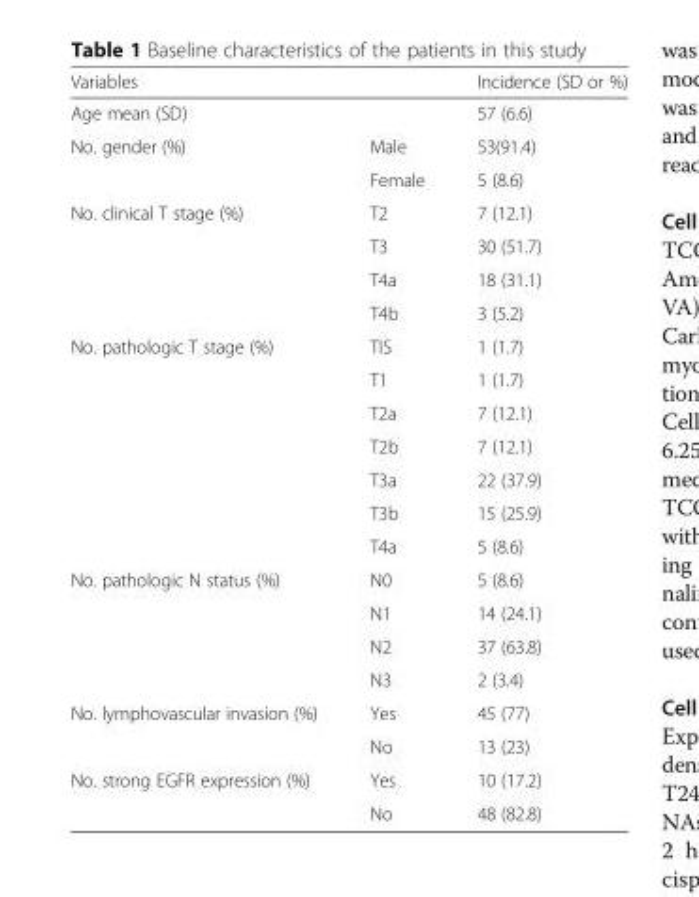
<table><thead><tr><td>Variables</td><td></td><td>Incidence (SD or %)</td></tr></thead><tbody><tr><td>Age mean (SD)</td><td></td><td>57 (6.6)</td></tr><tr><td rowspan="2">No. gender (%)</td><td>Male</td><td>53(91.4)</td></tr><tr><td>Female</td><td>5 (8.6)</td></tr><tr><td rowspan="4">No. clinical T stage (%)</td><td>T2</td><td>7 (12.1)</td></tr><tr><td>T3</td><td>30 (51.7)</td></tr><tr><td>T4a</td><td>18 (31.1)</td></tr><tr><td>T4b</td><td>3 (5.2)</td></tr><tr><td rowspan="7">No. pathologic T stage (%)</td><td>TIS</td><td>1 (1.7)</td></tr><tr><td>T1</td><td>1 (1.7)</td></tr><tr><td>T2a</td><td>7 (12.1)</td></tr><tr><td>T2b</td><td>7 (12.1)</td></tr><tr><td>T3a</td><td>22 (37.9)</td></tr><tr><td>T3b</td><td>15 (25.9)</td></tr><tr><td>T4a</td><td>5 (8.6)</td></tr><tr><td rowspan="4">No. pathologic N status (%)</td><td>N0</td><td>5 (8.6)</td></tr><tr><td>N1</td><td>14 (24.1)</td></tr><tr><td>N2</td><td>37 (63.8)</td></tr><tr><td>N3</td><td>2 (3.4)</td></tr><tr><td rowspan="2">No. lymphovascular invasion (%)</td><td>Yes</td><td>45 (77)</td></tr><tr><td>No</td><td>13 (23)</td></tr><tr><td rowspan="2">No. strong EGFR expression (%)</td><td>Yes</td><td>10 (17.2)</td></tr><tr><td>No</td><td>48 (82.8)</td></tr></tbody></table>